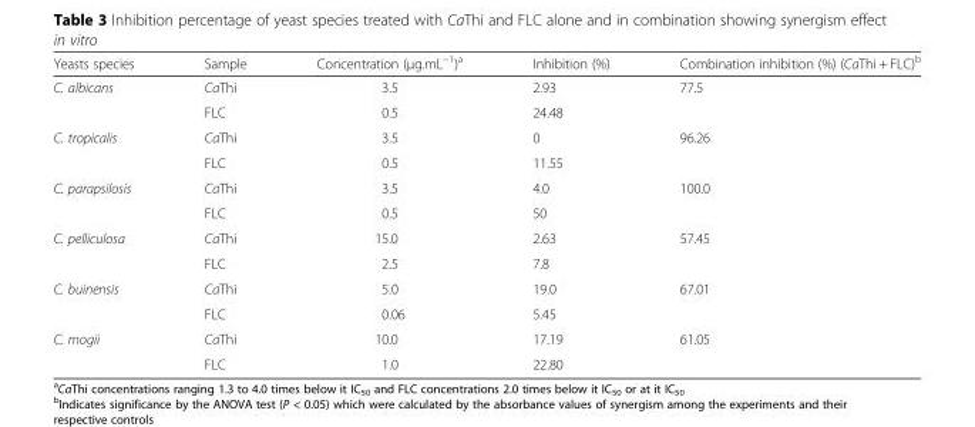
<table><thead><tr><td>Yeasts species</td><td>Sample</td><td>Concentration (μg.mL<sup>−1</sup>)<sup>a</sup></td><td>Inhibition (%)</td><td>Combination inhibition (%) (CaThi + FLC)<sup>b</sup></td></tr></thead><tbody><tr><td rowspan="2">C. albicans</td><td>CaThi</td><td>3.5</td><td>2.93</td><td rowspan="2">77.5</td></tr><tr><td>FLC</td><td>0.5</td><td>24.48</td></tr><tr><td rowspan="2">C. tropicalis</td><td>CaThi</td><td>3.5</td><td>0</td><td rowspan="2">96.26</td></tr><tr><td>FLC</td><td>0.5</td><td>11.55</td></tr><tr><td rowspan="2">C. parapsilosis</td><td>CaThi</td><td>3.5</td><td>4.0</td><td rowspan="2">100.0</td></tr><tr><td>FLC</td><td>0.5</td><td>50</td></tr><tr><td rowspan="2">C. pelliculosa</td><td>CaThi</td><td>15.0</td><td>2.63</td><td rowspan="2">57.45</td></tr><tr><td>FLC</td><td>2.5</td><td>7.8</td></tr><tr><td rowspan="2">C. buinensis</td><td>CaThi</td><td>5.0</td><td>19.0</td><td rowspan="2">67.01</td></tr><tr><td>FLC</td><td>0.06</td><td>5.45</td></tr><tr><td rowspan="2">C. mogii</td><td>CaThi</td><td>10.0</td><td>17.19</td><td rowspan="2">61.05</td></tr><tr><td>FLC</td><td>1.0</td><td>22.80</td></tr></tbody></table>